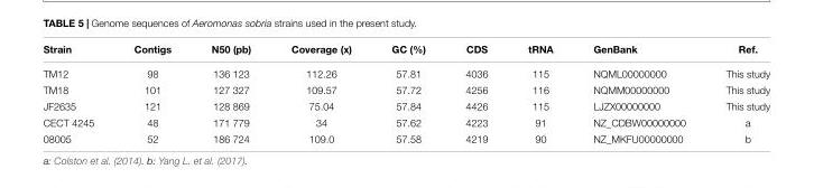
<table><thead><tr><td>Strain</td><td>Contigs</td><td>N50 (pb)</td><td>Coverage (x)</td><td>GC (%)</td><td>CDS</td><td>tRNA</td><td>GenBank</td><td>Ref.</td></tr></thead><tbody><tr><td>TM12</td><td>98</td><td>136 123</td><td>112.26</td><td>57.81</td><td>4036</td><td>115</td><td>NQML00000000</td><td>This study</td></tr><tr><td>TM18</td><td>101</td><td>127 327</td><td>109.57</td><td>57.72</td><td>4256</td><td>116</td><td>NQMM00000000</td><td>This study</td></tr><tr><td>JF2635</td><td>121</td><td>128 869</td><td>75.04</td><td>57.84</td><td>4426</td><td>115</td><td>LJZX00000000</td><td>This study</td></tr><tr><td>CECT 4245</td><td>48</td><td>171 779</td><td>34</td><td>57.62</td><td>4223</td><td>91</td><td>NZ_CDBW00000000</td><td>a</td></tr><tr><td>08005</td><td>52</td><td>186 724</td><td>109.0</td><td>57.58</td><td>4219</td><td>90</td><td>NZ_MKFU00000000</td><td>b</td></tr></tbody></table>